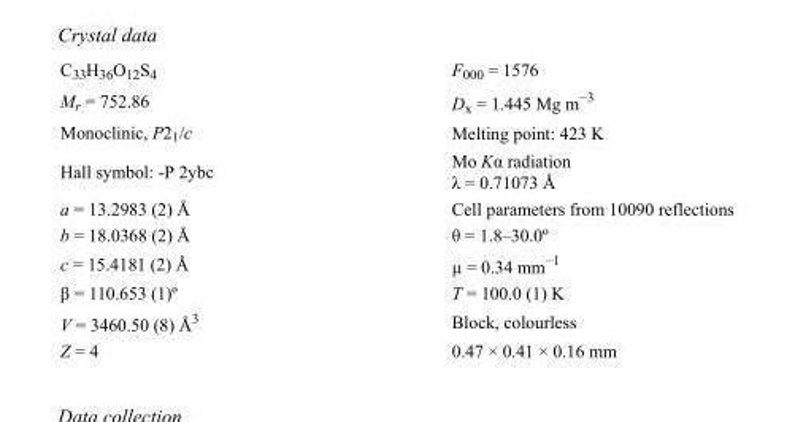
<table><tbody><tr><td>C<sub>33</sub>H<sub>36</sub>O<sub>12</sub>S<sub>4</sub></td><td>F<sub>000</sub> = 1576</td></tr><tr><td>M<sub>r</sub> = 752.86</td><td>D<sub>x</sub> = 1.445 Mg m<sup>−3</sup></td></tr><tr><td>Monoclinic, P2<sub>1</sub>/c</td><td>Melting point: 423 K</td></tr><tr><td>Hall symbol: -P 2ybc</td><td>Mo Kα radiation λ = 0.71073 Å</td></tr><tr><td>a = 13.2983 (2) Å</td><td>Cell parameters from 10090 reflections</td></tr><tr><td>b = 18.0368 (2) Å</td><td>θ = 1.8–30.0º</td></tr><tr><td>c = 15.4181 (2) Å</td><td>µ = 0.34 mm<sup>−1</sup></td></tr><tr><td>β = 110.653 (1)º</td><td>T = 100.0 (1) K</td></tr><tr><td>V = 3460.50 (8) Å<sup>3</sup></td><td>Block, colourless</td></tr><tr><td>Z = 4</td><td>0.47 × 0.41 × 0.16 mm</td></tr></tbody></table>